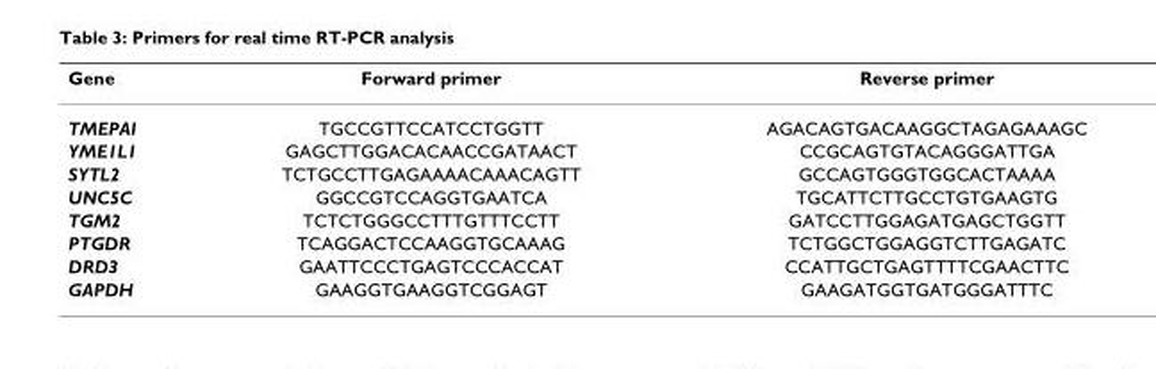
<table><thead><tr><td>Gene</td><td>Forward primer</td><td>Reverse primer</td></tr></thead><tbody><tr><td>TMEPAI</td><td>TGCCGTTCCATCCTGGTT</td><td>AGACAGTGACAAGGCTAGAGAAAGC</td></tr><tr><td>YME1L1</td><td>GAGCTTGGACACAACCGATAACT</td><td>CCGCAGTGTACAGGGATTGA</td></tr><tr><td>SYTL2</td><td>TCTGCCTTGAGAAAACAAACAGTT</td><td>GCCAGTGGGTGGCACTAAAA</td></tr><tr><td>UNC5C</td><td>GGCCGTCCAGGTGAATCA</td><td>TGCATTCTTGCCTGTGAAGTG</td></tr><tr><td>TGM2</td><td>TCTCTGGGCCTTTGTTTCCTT</td><td>GATCCTTGGAGATGAGCTGGTT</td></tr><tr><td>PTGDR</td><td>TCAGGACTCCAAGGTGCAAAG</td><td>TCTGGCTGGAGGTCTTGAGATC</td></tr><tr><td>DRD3</td><td>GAATTCCCTGAGTCCCACCAT</td><td>CCATTGCTGAGTTTTCGAACTTC</td></tr><tr><td>GAPDH</td><td>GAAGGTGAAGGTCGGAGT</td><td>GAAGATGGTGATGGGATTTC</td></tr></tbody></table>